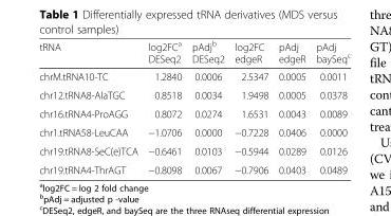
<table><thead><tr><td>tRNA</td><td>log2FC<sup>a</sup> DESeq2</td><td>pAdj<sup>b</sup> DESeq2</td><td>log2FC edgeR</td><td>pAdj edgeR</td><td>pAdj baySeq<sup>c</sup></td></tr></thead><tbody><tr><td>chrM.tRNA10-TC</td><td>1.2840</td><td>0.0006</td><td>2.5347</td><td>0.0005</td><td>0.0011</td></tr><tr><td>chr12.tRNA8-AlaTGC</td><td>0.8518</td><td>0.0034</td><td>1.9498</td><td>0.0005</td><td>0.0378</td></tr><tr><td>chr16.tRNA4-ProAGG</td><td>0.8072</td><td>0.0274</td><td>1.6531</td><td>0.0043</td><td>0.0089</td></tr><tr><td>chr1.tRNA58-LeuCAA</td><td>−1.0706</td><td>0.0000</td><td>−0.7228</td><td>0.0406</td><td>0.0000</td></tr><tr><td>chr19.tRNA8-SeC(e)TCA</td><td>−0.6461</td><td>0.0103</td><td>−0.5944</td><td>0.0289</td><td>0.0126</td></tr><tr><td>chr19.tRNA4-ThrAGT</td><td>−0.8098</td><td>0.0067</td><td>−0.7906</td><td>0.0403</td><td>0.0489</td></tr></tbody></table>